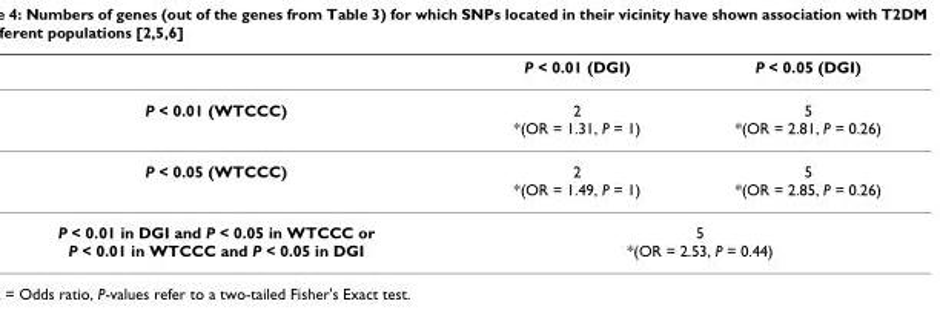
<table><thead><tr><td></td><td>P &lt; 0.01 (DGI)</td><td>P &lt; 0.05 (DGI)</td></tr></thead><tbody><tr><td>P &lt; 0.01 (WTCCC)</td><td>2 *(OR = 1.31, P = 1)</td><td>5 *(OR = 2.81, P = 0.26)</td></tr><tr><td>P &lt; 0.05 (WTCCC)</td><td>2 *(OR = 1.49, P = 1)</td><td>5 *(OR = 2.85, P = 0.26)</td></tr><tr><td>P &lt; 0.01 in DGI and P &lt; 0.05 in WTCCC or P &lt; 0.01 in WTCCC and P &lt; 0.05 in DGI</td><td colspan="2">5 *(OR = 2.53, P = 0.44)</td></tr></tbody></table>